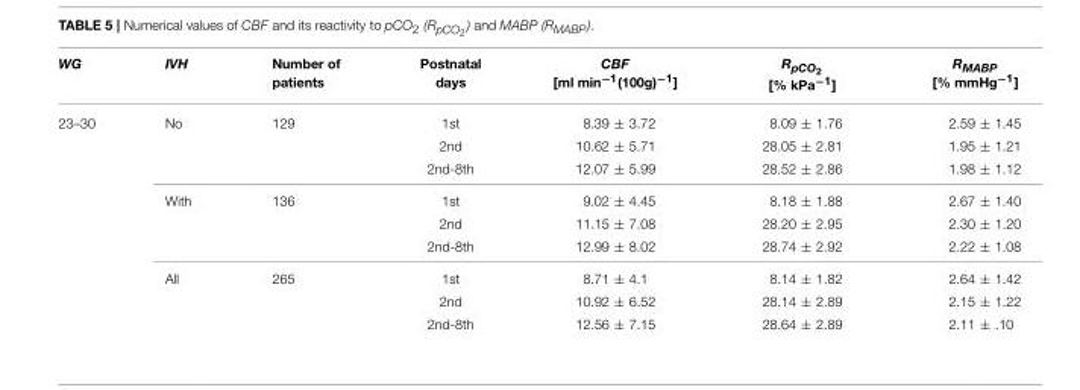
<table><thead><tr><td>WG</td><td>IVH</td><td>Number of patients</td><td>Postnatal days</td><td>CBF [ml min<sup>−1</sup>(100g)<sup>−1</sup>]</td><td>RpCO2 [% kPa−1]</td><td>RMABP [% mmHg−1]</td></tr></thead><tbody><tr><td rowspan="9">23–30</td><td>No</td><td>129</td><td>1st</td><td>8.39 ± 3.72</td><td>8.09 ± 1.76</td><td>2.59 ± 1.45</td></tr><tr><td></td><td></td><td>2nd</td><td>10.62 ± 5.71</td><td>28.05 ± 2.81</td><td>1.95 ± 1.21</td></tr><tr><td></td><td></td><td>2nd-8th</td><td>12.07 ± 5.99</td><td>28.52 ± 2.86</td><td>1.98 ± 1.12</td></tr><tr><td>With</td><td>136</td><td>1st</td><td>9.02 ± 4.45</td><td>8.18 ± 1.88</td><td>2.67 ± 1.40</td></tr><tr><td></td><td></td><td>2nd</td><td>11.15 ± 7.08</td><td>28.20 ± 2.95</td><td>2.30 ± 1.20</td></tr><tr><td></td><td></td><td>2nd-8th</td><td>12.99 ± 8.02</td><td>28.74 ± 2.92</td><td>2.22 ± 1.08</td></tr><tr><td>All</td><td>265</td><td>1st</td><td>8.71 ± 4.1</td><td>8.14 ± 1.82</td><td>2.64 ± 1.42</td></tr><tr><td></td><td></td><td>2nd</td><td>10.92 ± 6.52</td><td>28.14 ± 2.89</td><td>2.15 ± 1.22</td></tr><tr><td></td><td></td><td>2nd-8th</td><td>12.56 ± 7.15</td><td>28.64 ± 2.89</td><td>2.11 ± .10</td></tr></tbody></table>